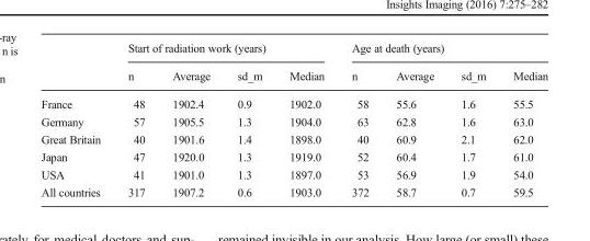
<table><thead><tr><td rowspan="2"></td><td colspan="4">Start of radiation work (years)</td><td colspan="4">Age at death (years)</td></tr><tr><td>n</td><td>Average</td><td>sd_m</td><td>Median</td><td>n</td><td>Average</td><td>sd_m</td><td>Median</td></tr></thead><tbody><tr><td>France</td><td>48</td><td>1902.4</td><td>0.9</td><td>1902.0</td><td>58</td><td>55.6</td><td>1.6</td><td>55.5</td></tr><tr><td>Germany</td><td>57</td><td>1905.5</td><td>1.3</td><td>1904.0</td><td>63</td><td>62.8</td><td>1.6</td><td>63.0</td></tr><tr><td>Great Britain</td><td>40</td><td>1901.6</td><td>1.4</td><td>1898.0</td><td>40</td><td>60.9</td><td>2.1</td><td>62.0</td></tr><tr><td>Japan</td><td>47</td><td>1920.0</td><td>1.3</td><td>1919.0</td><td>52</td><td>60.4</td><td>1.7</td><td>61.0</td></tr><tr><td>USA</td><td>41</td><td>1901.0</td><td>1.3</td><td>1897.0</td><td>53</td><td>56.9</td><td>1.9</td><td>54.0</td></tr><tr><td>All countries</td><td>317</td><td>1907.2</td><td>0.6</td><td>1903.0</td><td>372</td><td>58.7</td><td>0.7</td><td>59.5</td></tr></tbody></table>